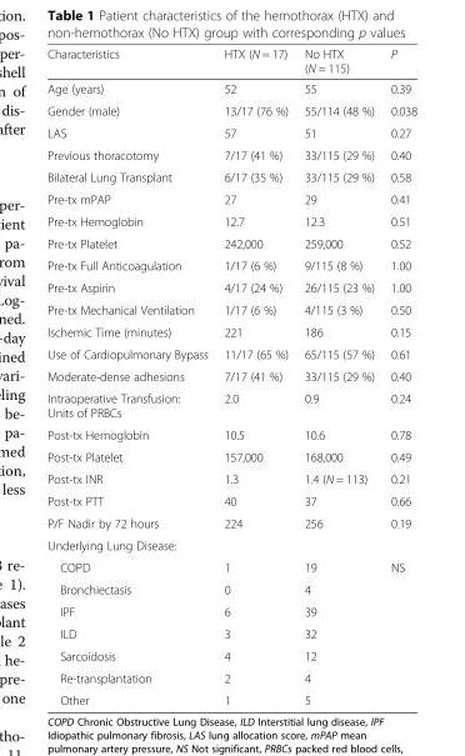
<table><thead><tr><td>Characteristics</td><td>HTX (N = 17)</td><td>No HTX (N = 115)</td><td>P</td></tr></thead><tbody><tr><td>Age (years)</td><td>52</td><td>55</td><td>0.39</td></tr><tr><td>Gender (male)</td><td>13/17 (76 %)</td><td>55/114 (48 %)</td><td>0.038</td></tr><tr><td>LAS</td><td>57</td><td>51</td><td>0.27</td></tr><tr><td>Previous thoracotomy</td><td>7/17 (41 %)</td><td>33/115 (29 %)</td><td>0.40</td></tr><tr><td>Bilateral Lung Transplant</td><td>6/17 (35 %)</td><td>33/115 (29 %)</td><td>0.58</td></tr><tr><td>Pre-tx mPAP</td><td>27</td><td>29</td><td>0.41</td></tr><tr><td>Pre-tx Hemoglobin</td><td>12.7</td><td>12.3</td><td>0.51</td></tr><tr><td>Pre-tx Platelet</td><td>242,000</td><td>259,000</td><td>0.52</td></tr><tr><td>Pre-tx Full Anticoagulation</td><td>1/17 (6 %)</td><td>9/115 (8 %)</td><td>1.00</td></tr><tr><td>Pre-tx Aspirin</td><td>4/17 (24 %)</td><td>26/115 (23 %)</td><td>1.00</td></tr><tr><td>Pre-tx Mechanical Ventilation</td><td>1/17 (6 %)</td><td>4/115 (3 %)</td><td>0.50</td></tr><tr><td>Ischemic Time (minutes)</td><td>221</td><td>186</td><td>0.15</td></tr><tr><td>Use of Cardiopulmonary Bypass</td><td>11/17 (65 %)</td><td>65/115 (57 %)</td><td>0.61</td></tr><tr><td>Moderate-dense adhesions</td><td>7/17 (41 %)</td><td>33/115 (29 %)</td><td>0.40</td></tr><tr><td>Intraoperative Transfusion: Units of PRBCs</td><td>2.0</td><td>0.9</td><td>0.24</td></tr><tr><td>Post-tx Hemoglobin</td><td>10.5</td><td>10.6</td><td>0.78</td></tr><tr><td>Post-tx Platelet</td><td>157,000</td><td>168,000</td><td>0.49</td></tr><tr><td>Post-tx INR</td><td>1.3</td><td>1.4 (N = 113)</td><td>0.21</td></tr><tr><td>Post-tx PTT</td><td>40</td><td>37</td><td>0.66</td></tr><tr><td>P/F Nadir by 72 hours</td><td>224</td><td>256</td><td>0.19</td></tr><tr><td colspan="4">Underlying Lung Disease:</td></tr><tr><td>COPD</td><td>1</td><td>19</td><td>NS</td></tr><tr><td>Bronchiectasis</td><td>0</td><td>4</td><td rowspan="6"></td></tr><tr><td>IPF</td><td>6</td><td>39</td></tr><tr><td>ILD</td><td>3</td><td>32</td></tr><tr><td>Sarcoidosis</td><td>4</td><td>12</td></tr><tr><td>Re-transplantation</td><td>2</td><td>4</td></tr><tr><td>Other</td><td>1</td><td>5</td></tr></tbody></table>